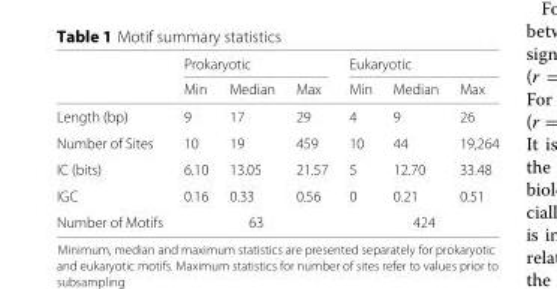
<table><thead><tr><td rowspan="2"></td><td colspan="3">Prokaryotic</td><td colspan="3">Eukaryotic</td></tr><tr><td>Min</td><td>Median</td><td>Max</td><td>Min</td><td>Median</td><td>Max</td></tr></thead><tbody><tr><td>Length (bp)</td><td>9</td><td>17</td><td>29</td><td>4</td><td>9</td><td>26</td></tr><tr><td>Number of Sites</td><td>10</td><td>19</td><td>459</td><td>10</td><td>44</td><td>19,264</td></tr><tr><td>IC (bits)</td><td>6.10</td><td>13.05</td><td>21.57</td><td>5</td><td>12.70</td><td>33.48</td></tr><tr><td>IGC</td><td>0.16</td><td>0.33</td><td>0.56</td><td>0</td><td>0.21</td><td>0.51</td></tr><tr><td>Number of Motifs</td><td colspan="3">63</td><td colspan="3">424</td></tr></tbody></table>